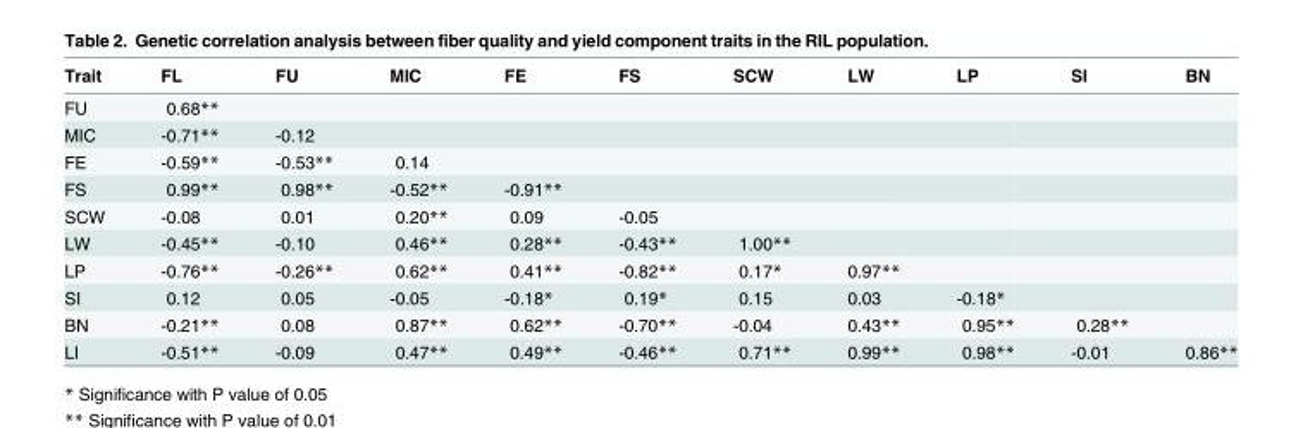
<table><thead><tr><td>Trait</td><td>FL</td><td>FU</td><td>MIC</td><td>FE</td><td>FS</td><td>SCW</td><td>LW</td><td>LP</td><td>SI</td><td>BN</td></tr></thead><tbody><tr><td>FU</td><td>0.68**</td><td></td><td></td><td></td><td></td><td></td><td></td><td></td><td></td><td></td></tr><tr><td>MIC</td><td>-0.71**</td><td>-0.12</td><td></td><td></td><td></td><td></td><td></td><td></td><td></td><td></td></tr><tr><td>FE</td><td>-0.59**</td><td>-0.53**</td><td>0.14</td><td></td><td></td><td></td><td></td><td></td><td></td><td></td></tr><tr><td>FS</td><td>0.99**</td><td>0.98**</td><td>-0.52**</td><td>-0.91**</td><td></td><td></td><td></td><td></td><td></td><td></td></tr><tr><td>SCW</td><td>-0.08</td><td>0.01</td><td>0.20**</td><td>0.09</td><td>-0.05</td><td></td><td></td><td></td><td></td><td></td></tr><tr><td>LW</td><td>-0.45**</td><td>-0.10</td><td>0.46**</td><td>0.28**</td><td>-0.43**</td><td>1.00**</td><td></td><td></td><td></td><td></td></tr><tr><td>LP</td><td>-0.76**</td><td>-0.26**</td><td>0.62**</td><td>0.41**</td><td>-0.82**</td><td>0.17*</td><td>0.97**</td><td></td><td></td><td></td></tr><tr><td>SI</td><td>0.12</td><td>0.05</td><td>-0.05</td><td>-0.18*</td><td>0.19*</td><td>0.15</td><td>0.03</td><td>-0.18*</td><td></td><td></td></tr><tr><td>BN</td><td>-0.21**</td><td>0.08</td><td>0.87**</td><td>0.62**</td><td>-0.70**</td><td>-0.04</td><td>0.43**</td><td>0.95**</td><td>0.28**</td><td></td></tr><tr><td>LI</td><td>-0.51**</td><td>-0.09</td><td>0.47**</td><td>0.49**</td><td>-0.46**</td><td>0.71**</td><td>0.99**</td><td>0.98**</td><td>-0.01</td><td>0.86**</td></tr></tbody></table>